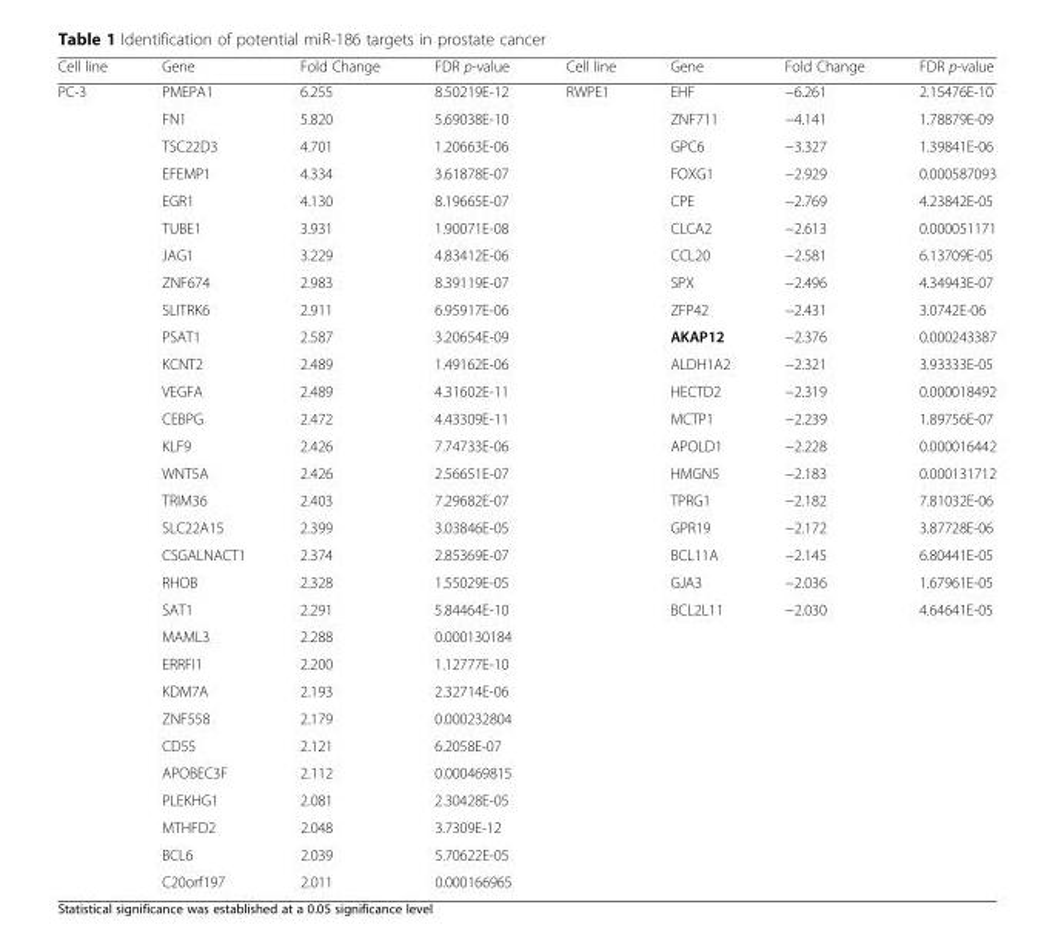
<table><thead><tr><td>Cell line</td><td>Gene</td><td>Fold Change</td><td>FDR p-value</td><td>Cell line</td><td>Gene</td><td>Fold Change</td><td>FDR p-value</td></tr></thead><tbody><tr><td rowspan="30">PC-3</td><td>PMEPA1</td><td>6.255</td><td>8.50219E-12</td><td rowspan="30">RWPE1</td><td>EHF</td><td>−6.261</td><td>2.15476E-10</td></tr><tr><td>FN1</td><td>5.820</td><td>5.69038E-10</td><td>ZNF711</td><td>−4.141</td><td>1.78879E-09</td></tr><tr><td>TSC22D3</td><td>4.701</td><td>1.20663E-06</td><td>GPC6</td><td>−3.327</td><td>1.39841E-06</td></tr><tr><td>EFEMP1</td><td>4.334</td><td>3.61878E-07</td><td>FOXG1</td><td>−2.929</td><td>0.000587093</td></tr><tr><td>EGR1</td><td>4.130</td><td>8.19665E-07</td><td>CPE</td><td>−2.769</td><td>4.23842E-05</td></tr><tr><td>TUBE1</td><td>3.931</td><td>1.90071E-08</td><td>CLCA2</td><td>−2.613</td><td>0.000051171</td></tr><tr><td>JAG1</td><td>3.229</td><td>4.83412E-06</td><td>CCL20</td><td>−2.581</td><td>6.13709E-05</td></tr><tr><td>ZNF674</td><td>2.983</td><td>8.39119E-07</td><td>SPX</td><td>−2.496</td><td>4.34943E-07</td></tr><tr><td>SLITRK6</td><td>2.911</td><td>6.95917E-06</td><td>ZFP42</td><td>−2.431</td><td>3.0742E-06</td></tr><tr><td>PSAT1</td><td>2.587</td><td>3.20654E-09</td><td>AKAP12</td><td>−2.376</td><td>0.000243387</td></tr><tr><td>KCNT2</td><td>2.489</td><td>1.49162E-06</td><td>ALDH1A2</td><td>−2.321</td><td>3.93333E-05</td></tr><tr><td>VEGFA</td><td>2.489</td><td>4.31602E-11</td><td>HECTD2</td><td>−2.319</td><td>0.000018492</td></tr><tr><td>CEBPG</td><td>2.472</td><td>4.43309E-11</td><td>MCTP1</td><td>−2.239</td><td>1.89756E-07</td></tr><tr><td>KLF9</td><td>2.426</td><td>7.74733E-06</td><td>APOLD1</td><td>−2.228</td><td>0.000016442</td></tr><tr><td>WNT5A</td><td>2.426</td><td>2.56651E-07</td><td>HMGN5</td><td>−2.183</td><td>0.000131712</td></tr><tr><td>TRIM36</td><td>2.403</td><td>7.29682E-07</td><td>TPRG1</td><td>−2.182</td><td>7.81032E-06</td></tr><tr><td>SLC22A15</td><td>2.399</td><td>3.03846E-05</td><td>GPR19</td><td>−2.172</td><td>3.87728E-06</td></tr><tr><td>CSGALNACT1</td><td>2.374</td><td>2.85369E-07</td><td>BCL11A</td><td>−2.145</td><td>6.80441E-05</td></tr><tr><td>RHOB</td><td>2.328</td><td>1.55029E-05</td><td>GJA3</td><td>−2.036</td><td>1.67961E-05</td></tr><tr><td>SAT1</td><td>2.291</td><td>5.84464E-10</td><td>BCL2L11</td><td>−2.030</td><td>4.64641E-05</td></tr><tr><td>MAML3</td><td>2.288</td><td>0.000130184</td><td rowspan="10" colspan="3"></td></tr><tr><td>ERRFI1</td><td>2.200</td><td>1.12777E-10</td></tr><tr><td>KDM7A</td><td>2.193</td><td>2.32714E-06</td></tr><tr><td>ZNF558</td><td>2.179</td><td>0.000232804</td></tr><tr><td>CD55</td><td>2.121</td><td>6.2058E-07</td></tr><tr><td>APOBEC3F</td><td>2.112</td><td>0.000469815</td></tr><tr><td>PLEKHG1</td><td>2.081</td><td>2.30428E-05</td></tr><tr><td>MTHFD2</td><td>2.048</td><td>3.7309E-12</td></tr><tr><td>BCL6</td><td>2.039</td><td>5.70622E-05</td></tr><tr><td>C20orf197</td><td>2.011</td><td>0.000166965</td></tr></tbody></table>